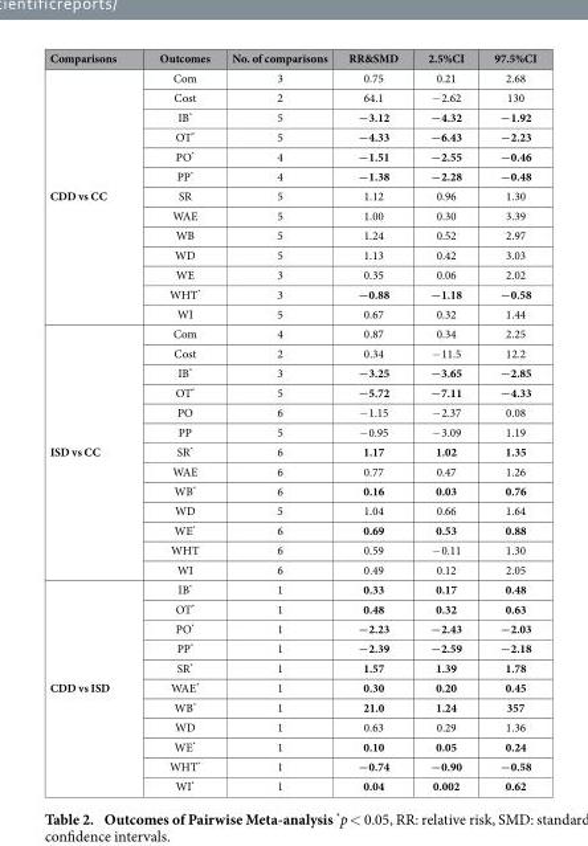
<table><thead><tr><td>Comparisons</td><td>Outcomes</td><td>No. of comparisons</td><td>RR&amp;SMD</td><td>2.5%CI</td><td>97.5%CI</td></tr></thead><tbody><tr><td rowspan="13">CDD vs CC</td><td>Com</td><td>3</td><td>0.75</td><td>0.21</td><td>2.68</td></tr><tr><td>Cost</td><td>2</td><td>64.1</td><td>− 2.62</td><td>130</td></tr><tr><td>IB*</td><td>5</td><td>−3.12</td><td>−4.32</td><td>−1.92</td></tr><tr><td>OT*</td><td>5</td><td>−4.33</td><td>−6.43</td><td>−2.23</td></tr><tr><td>PO*</td><td>4</td><td>−1.51</td><td>−2.55</td><td>−0.46</td></tr><tr><td>PP*</td><td>4</td><td>−1.38</td><td>−2.28</td><td>−0.48</td></tr><tr><td>SR</td><td>5</td><td>1.12</td><td>0.96</td><td>1.30</td></tr><tr><td>WAE</td><td>5</td><td>1.00</td><td>0.30</td><td>3.39</td></tr><tr><td>WB</td><td>5</td><td>1.24</td><td>0.52</td><td>2.97</td></tr><tr><td>WD</td><td>5</td><td>1.13</td><td>0.42</td><td>3.03</td></tr><tr><td>WE</td><td>3</td><td>0.35</td><td>0.06</td><td>2.02</td></tr><tr><td>WHT*</td><td>3</td><td>−0.88</td><td>−1.18</td><td>−0.58</td></tr><tr><td>WI</td><td>5</td><td>0.67</td><td>0.32</td><td>1.44</td></tr><tr><td rowspan="13">ISD vs CC</td><td>Com</td><td>4</td><td>0.87</td><td>0.34</td><td>2.25</td></tr><tr><td>Cost</td><td>2</td><td>0.34</td><td>− 11.5</td><td>12.2</td></tr><tr><td>IB*</td><td>3</td><td>−3.25</td><td>−3.65</td><td>−2.85</td></tr><tr><td>OT*</td><td>5</td><td>−5.72</td><td>−7.11</td><td>−4.33</td></tr><tr><td>PO</td><td>6</td><td>− 1.15</td><td>− 2.37</td><td>0.08</td></tr><tr><td>PP</td><td>5</td><td>− 0.95</td><td>− 3.09</td><td>1.19</td></tr><tr><td>SR*</td><td>6</td><td>1.17</td><td>1.02</td><td>1.35</td></tr><tr><td>WAE</td><td>6</td><td>0.77</td><td>0.47</td><td>1.26</td></tr><tr><td>WB*</td><td>6</td><td>0.16</td><td>0.03</td><td>0.76</td></tr><tr><td>WD</td><td>5</td><td>1.04</td><td>0.66</td><td>1.64</td></tr><tr><td>WE*</td><td>6</td><td>0.69</td><td>0.53</td><td>0.88</td></tr><tr><td>WHT</td><td>6</td><td>0.59</td><td>− 0.11</td><td>1.30</td></tr><tr><td>WI</td><td>6</td><td>0.49</td><td>0.12</td><td>2.05</td></tr><tr><td rowspan="11">CDD vs ISD</td><td>IB*</td><td>1</td><td>0.33</td><td>0.17</td><td>0.48</td></tr><tr><td>OT*</td><td>1</td><td>0.48</td><td>0.32</td><td>0.63</td></tr><tr><td>PO*</td><td>1</td><td>−2.23</td><td>−2.43</td><td>−2.03</td></tr><tr><td>PP*</td><td>1</td><td>−2.39</td><td>−2.59</td><td>−2.18</td></tr><tr><td>SR*</td><td>1</td><td>1.57</td><td>1.39</td><td>1.78</td></tr><tr><td>WAE*</td><td>1</td><td>0.30</td><td>0.20</td><td>0.45</td></tr><tr><td>WB*</td><td>1</td><td>21.0</td><td>1.24</td><td>357</td></tr><tr><td>WD</td><td>1</td><td>0.63</td><td>0.29</td><td>1.36</td></tr><tr><td>WE*</td><td>1</td><td>0.10</td><td>0.05</td><td>0.24</td></tr><tr><td>WHT*</td><td>1</td><td>−0.74</td><td>−0.90</td><td>−0.58</td></tr><tr><td>WI*</td><td>1</td><td>0.04</td><td>0.002</td><td>0.62</td></tr></tbody></table>